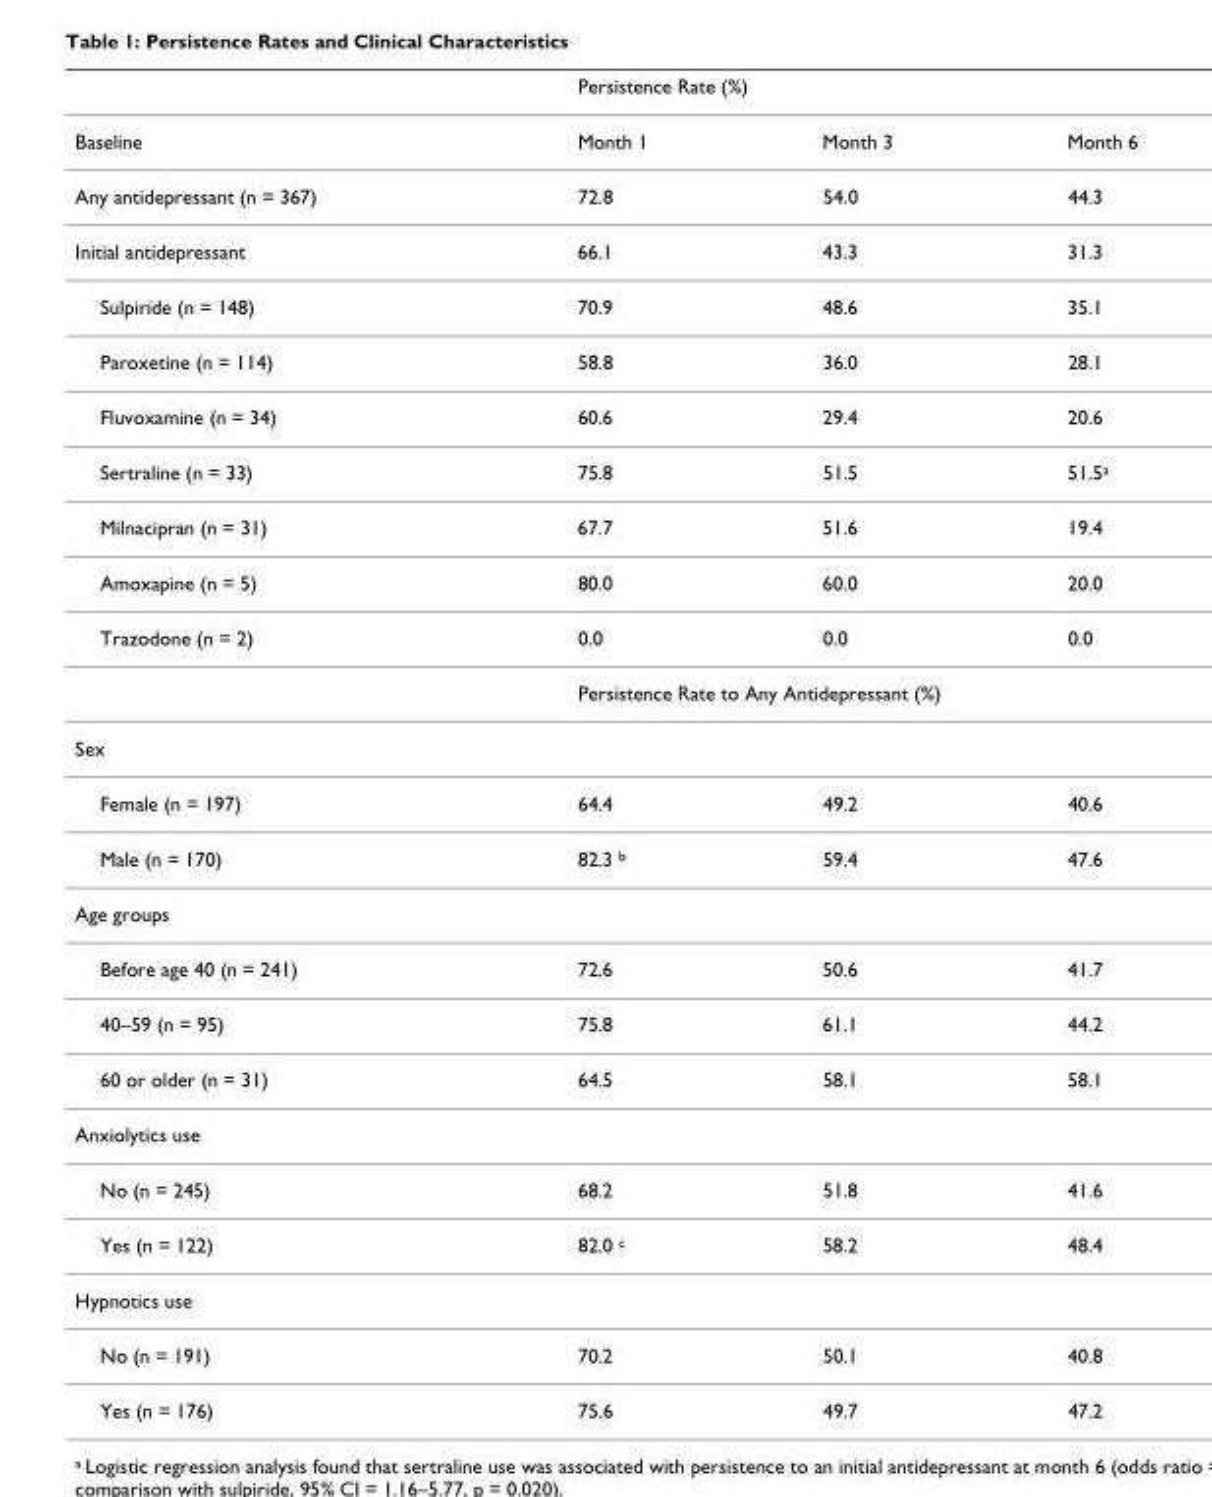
<table><thead><tr><td rowspan="2">Baseline</td><td colspan="3">Persistence Rate (%)</td></tr><tr><td>Month 1</td><td>Month 3</td><td>Month 6</td></tr></thead><tbody><tr><td>Any antidepressant (n = 367)</td><td>72.8</td><td>54.0</td><td>44.3</td></tr><tr><td>Initial antidepressant</td><td>66.1</td><td>43.3</td><td>31.3</td></tr><tr><td>Sulpiride (n = 148)</td><td>70.9</td><td>48.6</td><td>35.1</td></tr><tr><td>Paroxetine (n = 114)</td><td>58.8</td><td>36.0</td><td>28.1</td></tr><tr><td>Fluvoxamine (n = 34)</td><td>60.6</td><td>29.4</td><td>20.6</td></tr><tr><td>Sertraline (n = 33)</td><td>75.8</td><td>51.5</td><td>51.5<sup>a</sup></td></tr><tr><td>Milnacipran (n = 31)</td><td>67.7</td><td>51.6</td><td>19.4</td></tr><tr><td>Amoxapine (n = 5)</td><td>80.0</td><td>60.0</td><td>20.0</td></tr><tr><td rowspan="2">Trazodone (n = 2)</td><td>0.0</td><td>0.0</td><td>0.0</td></tr><tr><td colspan="3">Persistence Rate to Any Antidepressant (%)</td></tr><tr><td colspan="4">Sex</td></tr><tr><td>Female (n = 197)</td><td>64.4</td><td>49.2</td><td>40.6</td></tr><tr><td>Male (n = 170)</td><td>82.3 <sup>b</sup></td><td>59.4</td><td>47.6</td></tr><tr><td colspan="4">Age groups</td></tr><tr><td>Before age 40 (n = 241)</td><td>72.6</td><td>50.6</td><td>41.7</td></tr><tr><td>40–59 (n = 95)</td><td>75.8</td><td>61.1</td><td>44.2</td></tr><tr><td>60 or older (n = 31)</td><td>64.5</td><td>58.1</td><td>58.1</td></tr><tr><td colspan="4">Anxiolytics use</td></tr><tr><td>No (n = 245)</td><td>68.2</td><td>51.8</td><td>41.6</td></tr><tr><td>Yes (n = 122)</td><td>82.0 <sup>c</sup></td><td>58.2</td><td>48.4</td></tr><tr><td colspan="4">Hypnotics use</td></tr><tr><td>No (n = 191)</td><td>70.2</td><td>50.1</td><td>40.8</td></tr><tr><td>Yes (n = 176)</td><td>75.6</td><td>49.7</td><td>47.2</td></tr></tbody></table>